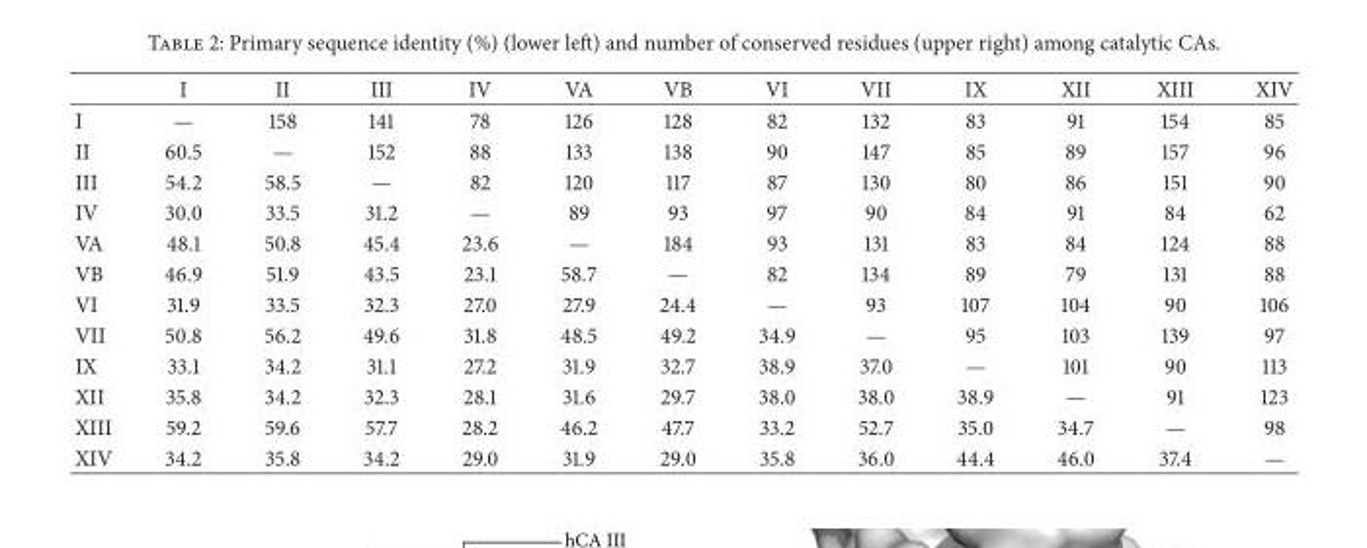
<table><thead><tr><td></td><td>I</td><td>II</td><td>III</td><td>IV</td><td>VA</td><td>VB</td><td>VI</td><td>VII</td><td>IX</td><td>XII</td><td>XIII</td><td>XIV</td></tr></thead><tbody><tr><td>I</td><td>—</td><td>158</td><td>141</td><td>78</td><td>126</td><td>128</td><td>82</td><td>132</td><td>83</td><td>91</td><td>154</td><td>85</td></tr><tr><td>II</td><td>60.5</td><td>—</td><td>152</td><td>88</td><td>133</td><td>138</td><td>90</td><td>147</td><td>85</td><td>89</td><td>157</td><td>96</td></tr><tr><td>III</td><td>54.2</td><td>58.5</td><td>—</td><td>82</td><td>120</td><td>117</td><td>87</td><td>130</td><td>80</td><td>86</td><td>151</td><td>90</td></tr><tr><td>IV</td><td>30.0</td><td>33.5</td><td>31.2</td><td>—</td><td>89</td><td>93</td><td>97</td><td>90</td><td>84</td><td>91</td><td>84</td><td>62</td></tr><tr><td>VA</td><td>48.1</td><td>50.8</td><td>45.4</td><td>23.6</td><td>—</td><td>184</td><td>93</td><td>131</td><td>83</td><td>84</td><td>124</td><td>88</td></tr><tr><td>VB</td><td>46.9</td><td>51.9</td><td>43.5</td><td>23.1</td><td>58.7</td><td>—</td><td>82</td><td>134</td><td>89</td><td>79</td><td>131</td><td>88</td></tr><tr><td>VI</td><td>31.9</td><td>33.5</td><td>32.3</td><td>27.0</td><td>27.9</td><td>24.4</td><td>—</td><td>93</td><td>107</td><td>104</td><td>90</td><td>106</td></tr><tr><td>VII</td><td>50.8</td><td>56.2</td><td>49.6</td><td>31.8</td><td>48.5</td><td>49.2</td><td>34.9</td><td>—</td><td>95</td><td>103</td><td>139</td><td>97</td></tr><tr><td>IX</td><td>33.1</td><td>34.2</td><td>31.1</td><td>27.2</td><td>31.9</td><td>32.7</td><td>38.9</td><td>37.0</td><td>—</td><td>101</td><td>90</td><td>113</td></tr><tr><td>XII</td><td>35.8</td><td>34.2</td><td>32.3</td><td>28.1</td><td>31.6</td><td>29.7</td><td>38.0</td><td>38.0</td><td>38.9</td><td>—</td><td>91</td><td>123</td></tr><tr><td>XIII</td><td>59.2</td><td>59.6</td><td>57.7</td><td>28.2</td><td>46.2</td><td>47.7</td><td>33.2</td><td>52.7</td><td>35.0</td><td>34.7</td><td>—</td><td>98</td></tr><tr><td>XIV</td><td>34.2</td><td>35.8</td><td>34.2</td><td>29.0</td><td>31.9</td><td>29.0</td><td>35.8</td><td>36.0</td><td>44.4</td><td>46.0</td><td>37.4</td><td>—</td></tr></tbody></table>